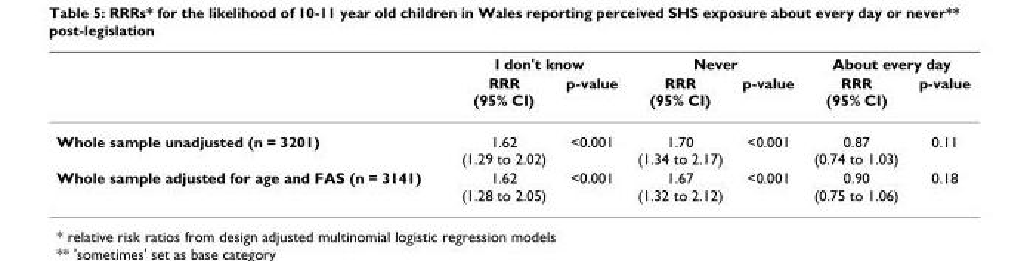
<table><thead><tr><td rowspan="2"></td><td colspan="2">I don&#x27;t know</td><td colspan="2">Never</td><td colspan="2">About every day</td></tr><tr><td>RRR (95% CI)</td><td>p-value</td><td>RRR (95% CI)</td><td>p-value</td><td>RRR (95% CI)</td><td>p-value</td></tr></thead><tbody><tr><td>Whole sample unadjusted (n = 3201)</td><td>1.62 (1.29 to 2.02)</td><td>&lt;0.001</td><td>1.70 (1.34 to 2.17)</td><td>&lt;0.001</td><td>0.87 (0.74 to 1.03)</td><td>0.11</td></tr><tr><td>Whole sample adjusted for age and FAS (n = 3141)</td><td>1.62 (1.28 to 2.05)</td><td>&lt;0.001</td><td>1.67 (1.32 to 2.12)</td><td>&lt;0.001</td><td>0.90 (0.75 to 1.06)</td><td>0.18</td></tr></tbody></table>